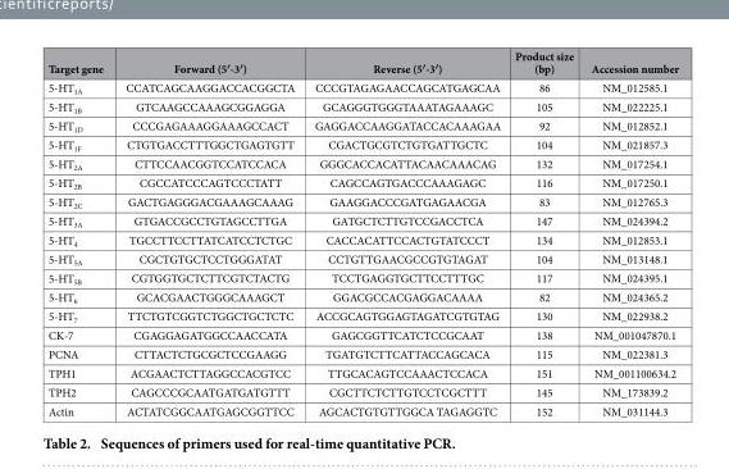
<table><thead><tr><td>Target gene</td><td>Forward (5′-3′)</td><td>Reverse (5′-3′)</td><td>Product size (bp)</td><td>Accession number</td></tr></thead><tbody><tr><td>5-HT<sub>1A</sub></td><td>CCATCAGCAAGGACCACGGCTA</td><td>CCCGTAGAGAACCAGCATGAGCAA</td><td>86</td><td>NM_012585.1</td></tr><tr><td>5-HT<sub>1B</sub></td><td>GTCAAGCCAAAGCGGAGGA</td><td>GCAGGGTGGGTAAATAGAAAGC</td><td>105</td><td>NM_022225.1</td></tr><tr><td>5-HT<sub>1D</sub></td><td>CCCGAGAAAGGAAAGCCACT</td><td>GAGGACCAAGGATACCACAAAGAA</td><td>92</td><td>NM_012852.1</td></tr><tr><td>5-HT<sub>1F</sub></td><td>CTGTGACCTTTGGCTGAGTGTT</td><td>CGACTGCGTCTGTGATTGCTC</td><td>104</td><td>NM_021857.3</td></tr><tr><td>5-HT<sub>2A</sub></td><td>CTTCCAACGGTCCATCCACA</td><td>GGGCACCACATTACAACAAACAG</td><td>132</td><td>NM_017254.1</td></tr><tr><td>5-HT<sub>2B</sub></td><td>CGCCATCCCAGTCCCTATT</td><td>CAGCCAGTGACCCAAAGAGC</td><td>116</td><td>NM_017250.1</td></tr><tr><td>5-HT<sub>2C</sub></td><td>GACTGAGGGACGAAAGCAAAG</td><td>GAAGGACCCGATGAGAACGA</td><td>83</td><td>NM_012765.3</td></tr><tr><td>5-HT<sub>3A</sub></td><td>GTGACCGCCTGTAGCCTTGA</td><td>GATGCTCTTGTCCGACCTCA</td><td>147</td><td>NM_024394.2</td></tr><tr><td>5-HT<sub>4</sub></td><td>TGCCTTCCTTATCATCCTCTGC</td><td>CACCACATTCCACTGTATCCCT</td><td>134</td><td>NM_012853.1</td></tr><tr><td>5-HT<sub>5A</sub></td><td>CGCTGTGCTCCTGGGATAT</td><td>CCTGTTGAACGCCGTGTAGAT</td><td>104</td><td>NM_013148.1</td></tr><tr><td>5-HT<sub>5B</sub></td><td>CGTGGTGCTCTTCGTCTACTG</td><td>TCCTGAGGTGCTTCCTTTGC</td><td>117</td><td>NM_024395.1</td></tr><tr><td>5-HT<sub>6</sub></td><td>GCACGAACTGGGCAAAGCT</td><td>GGACGCCACGAGGACAAAA</td><td>82</td><td>NM_024365.2</td></tr><tr><td>5-HT<sub>7</sub></td><td>TTCTGTCGGTCTGGCTGCTCTC</td><td>ACCGCAGTGGAGTAGATCGTGTAG</td><td>130</td><td>NM_022938.2</td></tr><tr><td>CK-7</td><td>CGAGGAGATGGCCAACCATA</td><td>GAGCGGTTCATCTCCGCAAT</td><td>138</td><td>NM_001047870.1</td></tr><tr><td>PCNA</td><td>CTTACTCTGCGCTCCGAAGG</td><td>TGATGTCTTCATTACCAGCACA</td><td>115</td><td>NM_022381.3</td></tr><tr><td>TPH1</td><td>ACGAACTCTTAGGCCACGTCC</td><td>TTGCACAGTCCAAACTCCACA</td><td>151</td><td>NM_001100634.2</td></tr><tr><td>TPH2</td><td>CAGCCCGCAATGATGATGTTT</td><td>CGCTTCTCTTGTCCTCGCTTT</td><td>145</td><td>NM_173839.2</td></tr><tr><td>Actin</td><td>ACTATCGGCAATGAGCGGTTCC</td><td>AGCACTGTGTTGGCA TAGAGGTC</td><td>152</td><td>NM_031144.3</td></tr></tbody></table>